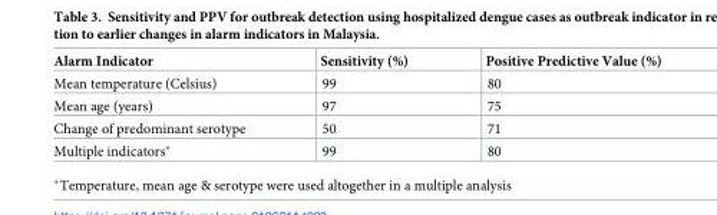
<table><thead><tr><td>Alarm Indicator</td><td>Sensitivity (%)</td><td>Positive Predictive Value (%)</td></tr></thead><tbody><tr><td>Mean temperature (Celsius)</td><td>99</td><td>80</td></tr><tr><td>Mean age (years)</td><td>97</td><td>75</td></tr><tr><td>Change of predominant serotype</td><td>50</td><td>71</td></tr><tr><td>Multiple indicators*</td><td>99</td><td>80</td></tr></tbody></table>